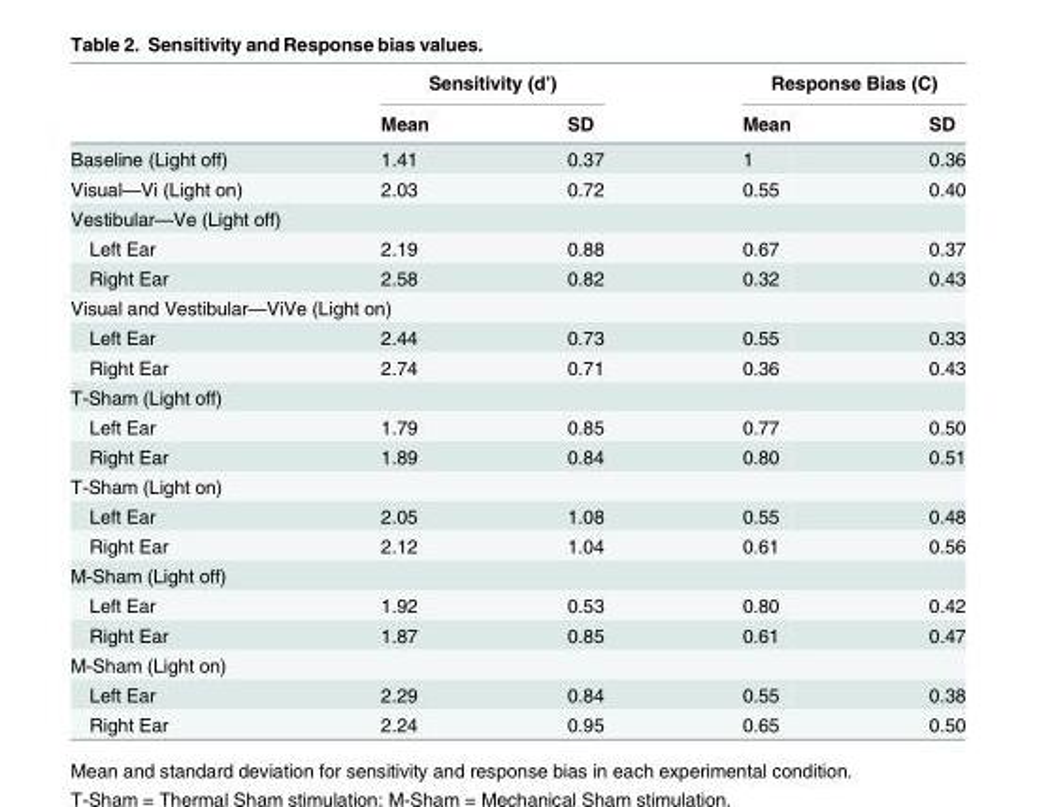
<table><thead><tr><td rowspan="2"></td><td colspan="2">Sensitivity (d’)</td><td colspan="2">Response Bias (C)</td></tr><tr><td>Mean</td><td>SD</td><td>Mean</td><td>SD</td></tr></thead><tbody><tr><td>Baseline (Light off)</td><td>1.41</td><td>0.37</td><td>1</td><td>0.36</td></tr><tr><td>Visual—Vi (Light on)</td><td>2.03</td><td>0.72</td><td>0.55</td><td>0.40</td></tr><tr><td colspan="5">Vestibular—Ve (Light off)</td></tr><tr><td>Left Ear</td><td>2.19</td><td>0.88</td><td>0.67</td><td>0.37</td></tr><tr><td>Right Ear</td><td>2.58</td><td>0.82</td><td>0.32</td><td>0.43</td></tr><tr><td colspan="5">Visual and Vestibular—ViVe (Light on)</td></tr><tr><td>Left Ear</td><td>2.44</td><td>0.73</td><td>0.55</td><td>0.33</td></tr><tr><td>Right Ear</td><td>2.74</td><td>0.71</td><td>0.36</td><td>0.43</td></tr><tr><td colspan="5">T-Sham (Light off)</td></tr><tr><td>Left Ear</td><td>1.79</td><td>0.85</td><td>0.77</td><td>0.50</td></tr><tr><td>Right Ear</td><td>1.89</td><td>0.84</td><td>0.80</td><td>0.51</td></tr><tr><td colspan="5">T-Sham (Light on)</td></tr><tr><td>Left Ear</td><td>2.05</td><td>1.08</td><td>0.55</td><td>0.48</td></tr><tr><td>Right Ear</td><td>2.12</td><td>1.04</td><td>0.61</td><td>0.56</td></tr><tr><td colspan="5">M-Sham (Light off)</td></tr><tr><td>Left Ear</td><td>1.92</td><td>0.53</td><td>0.80</td><td>0.42</td></tr><tr><td>Right Ear</td><td>1.87</td><td>0.85</td><td>0.61</td><td>0.47</td></tr><tr><td colspan="5">M-Sham (Light on)</td></tr><tr><td>Left Ear</td><td>2.29</td><td>0.84</td><td>0.55</td><td>0.38</td></tr><tr><td>Right Ear</td><td>2.24</td><td>0.95</td><td>0.65</td><td>0.50</td></tr></tbody></table>